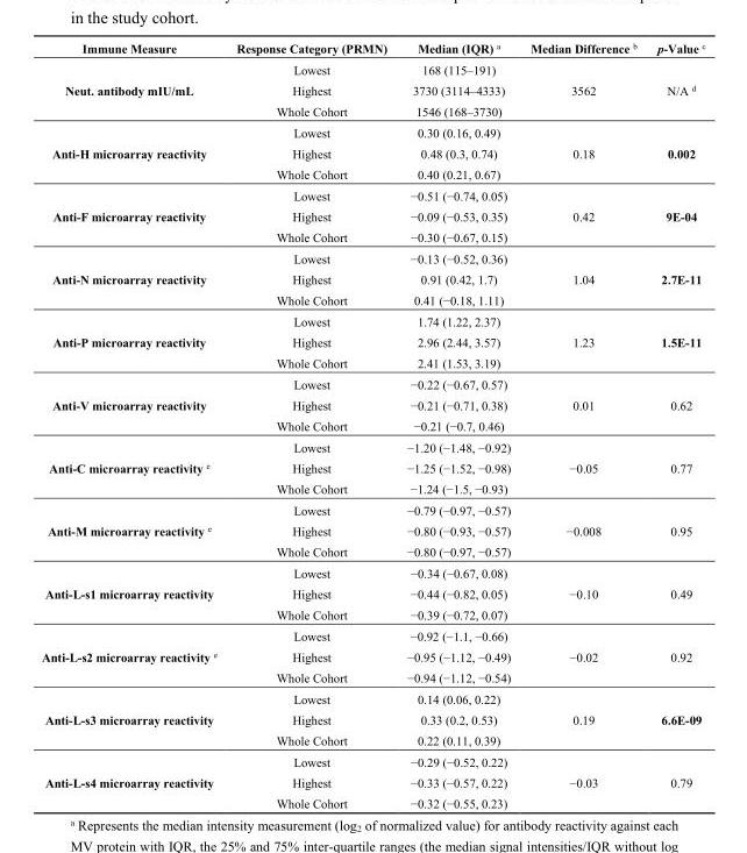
<table><thead><tr><td>Immune Measure</td><td>Response Category (PRMN)</td><td>Median (IQR) <sup>a</sup></td><td>Median Difference <sup>b</sup></td><td>p-Value <sup>c</sup></td></tr></thead><tbody><tr><td rowspan="3">Neut. antibody mIU/mL</td><td>Lowest</td><td>168 (115–191)</td><td></td><td></td></tr><tr><td>Highest</td><td>3730 (3114–4333)</td><td>3562</td><td>N/A <sup>d</sup></td></tr><tr><td>Whole Cohort</td><td>1546 (168–3730)</td><td></td><td></td></tr><tr><td rowspan="3">Anti-H microarray reactivity</td><td>Lowest</td><td>0.30 (0.16, 0.49)</td><td></td><td></td></tr><tr><td>Highest</td><td>0.48 (0.3, 0.74)</td><td>0.18</td><td>0.002</td></tr><tr><td>Whole Cohort</td><td>0.40 (0.21, 0.67)</td><td></td><td></td></tr><tr><td rowspan="3">Anti-F microarray reactivity</td><td>Lowest</td><td>−0.51 (−0.74, 0.05)</td><td></td><td></td></tr><tr><td>Highest</td><td>−0.09 (−0.53, 0.35)</td><td>0.42</td><td>9E-04</td></tr><tr><td>Whole Cohort</td><td>−0.30 (−0.67, 0.15)</td><td></td><td></td></tr><tr><td rowspan="3">Anti-N microarray reactivity</td><td>Lowest</td><td>−0.13 (−0.52, 0.36)</td><td></td><td></td></tr><tr><td>Highest</td><td>0.91 (0.42, 1.7)</td><td>1.04</td><td>2.7E-11</td></tr><tr><td>Whole Cohort</td><td>0.41 (−0.18, 1.11)</td><td></td><td></td></tr><tr><td rowspan="3">Anti-P microarray reactivity</td><td>Lowest</td><td>1.74 (1.22, 2.37)</td><td></td><td></td></tr><tr><td>Highest</td><td>2.96 (2.44, 3.57)</td><td>1.23</td><td>1.5E-11</td></tr><tr><td>Whole Cohort</td><td>2.41 (1.53, 3.19)</td><td></td><td></td></tr><tr><td rowspan="3">Anti-V microarray reactivity</td><td>Lowest</td><td>−0.22 (−0.67, 0.57)</td><td></td><td></td></tr><tr><td>Highest</td><td>−0.21 (−0.71, 0.38)</td><td>0.01</td><td>0.62</td></tr><tr><td>Whole Cohort</td><td>−0.21 (−0.7, 0.46)</td><td></td><td></td></tr><tr><td rowspan="3">Anti-C microarray reactivity <sup>e</sup></td><td>Lowest</td><td>−1.20 (−1.48, −0.92)</td><td></td><td></td></tr><tr><td>Highest</td><td>−1.25 (−1.52, −0.98)</td><td>−0.05</td><td>0.77</td></tr><tr><td>Whole Cohort</td><td>−1.24 (−1.5, −0.93)</td><td></td><td></td></tr><tr><td rowspan="3">Anti-M microarray reactivity <sup>e</sup></td><td>Lowest</td><td>−0.79 (−0.97, −0.57)</td><td></td><td></td></tr><tr><td>Highest</td><td>−0.80 (−0.93, −0.57)</td><td>−0.008</td><td>0.95</td></tr><tr><td>Whole Cohort</td><td>−0.80 (−0.97, −0.57)</td><td></td><td></td></tr><tr><td rowspan="3">Anti-L-s1 microarray reactivity</td><td>Lowest</td><td>−0.34 (−0.67, 0.08)</td><td></td><td></td></tr><tr><td>Highest</td><td>−0.44 (−0.82, 0.05)</td><td>−0.10</td><td>0.49</td></tr><tr><td>Whole Cohort</td><td>−0.39 (−0.72, 0.07)</td><td></td><td></td></tr><tr><td rowspan="3">Anti-L-s2 microarray reactivity <sup>e</sup></td><td>Lowest</td><td>−0.92 (−1.1, −0.66)</td><td></td><td></td></tr><tr><td>Highest</td><td>−0.95 (−1.12, −0.49)</td><td>−0.02</td><td>0.92</td></tr><tr><td>Whole Cohort</td><td>−0.94 (−1.12, −0.54)</td><td></td><td></td></tr><tr><td rowspan="3">Anti-L-s3 microarray reactivity</td><td>Lowest</td><td>0.14 (0.06, 0.22)</td><td></td><td></td></tr><tr><td>Highest</td><td>0.33 (0.2, 0.53)</td><td>0.19</td><td>6.6E-09</td></tr><tr><td>Whole Cohort</td><td>0.22 (0.11, 0.39)</td><td></td><td></td></tr><tr><td rowspan="3">Anti-L-s4 microarray reactivity</td><td>Lowest</td><td>−0.29 (−0.52, 0.22)</td><td></td><td></td></tr><tr><td>Highest</td><td>−0.33 (−0.57, 0.22)</td><td>−0.03</td><td>0.79</td></tr><tr><td>Whole Cohort</td><td>−0.32 (−0.55, 0.23)</td><td></td><td></td></tr></tbody></table>